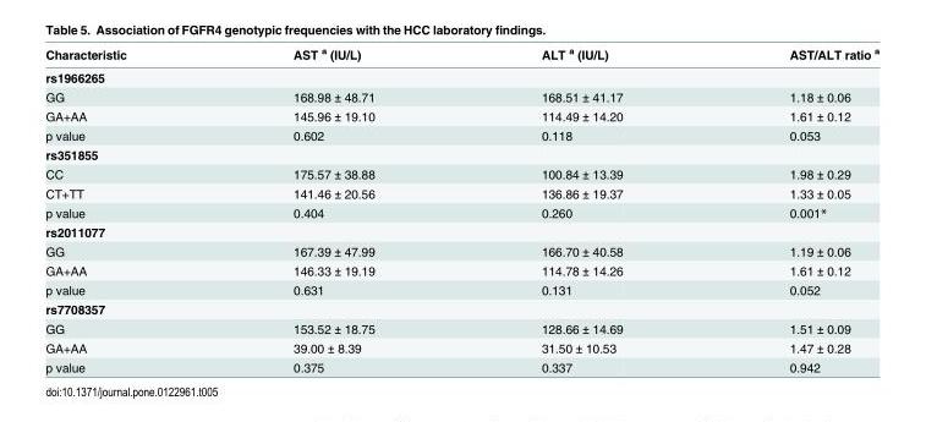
<table><thead><tr><td>Characteristic</td><td>AST <sup>a</sup> (IU/L)</td><td>ALT <sup>a</sup> (IU/L)</td><td>AST/ALT ratio <sup>a</sup></td></tr></thead><tbody><tr><td colspan="4">rs1966265</td></tr><tr><td>GG</td><td>168.98 ± 48.71</td><td>168.51 ± 41.17</td><td>1.18 ± 0.06</td></tr><tr><td>GA+AA</td><td>145.96 ± 19.10</td><td>114.49 ± 14.20</td><td>1.61 ± 0.12</td></tr><tr><td>p value</td><td>0.602</td><td>0.118</td><td>0.053</td></tr><tr><td colspan="4">rs351855</td></tr><tr><td>CC</td><td>175.57 ± 38.88</td><td>100.84 ± 13.39</td><td>1.98 ± 0.29</td></tr><tr><td>CT+TT</td><td>141.46 ± 20.56</td><td>136.86 ± 19.37</td><td>1.33 ± 0.05</td></tr><tr><td>p value</td><td>0.404</td><td>0.260</td><td>0.001*</td></tr><tr><td colspan="4">rs2011077</td></tr><tr><td>GG</td><td>167.39 ± 47.99</td><td>166.70 ± 40.58</td><td>1.19 ± 0.06</td></tr><tr><td>GA+AA</td><td>146.33 ± 19.19</td><td>114.78 ± 14.26</td><td>1.61 ± 0.12</td></tr><tr><td>p value</td><td>0.631</td><td>0.131</td><td>0.052</td></tr><tr><td colspan="4">rs7708357</td></tr><tr><td>GG</td><td>153.52 ± 18.75</td><td>128.66 ± 14.69</td><td>1.51 ± 0.09</td></tr><tr><td>GA+AA</td><td>39.00 ± 8.39</td><td>31.50 ± 10.53</td><td>1.47 ± 0.28</td></tr><tr><td>p value</td><td>0.375</td><td>0.337</td><td>0.942</td></tr></tbody></table>